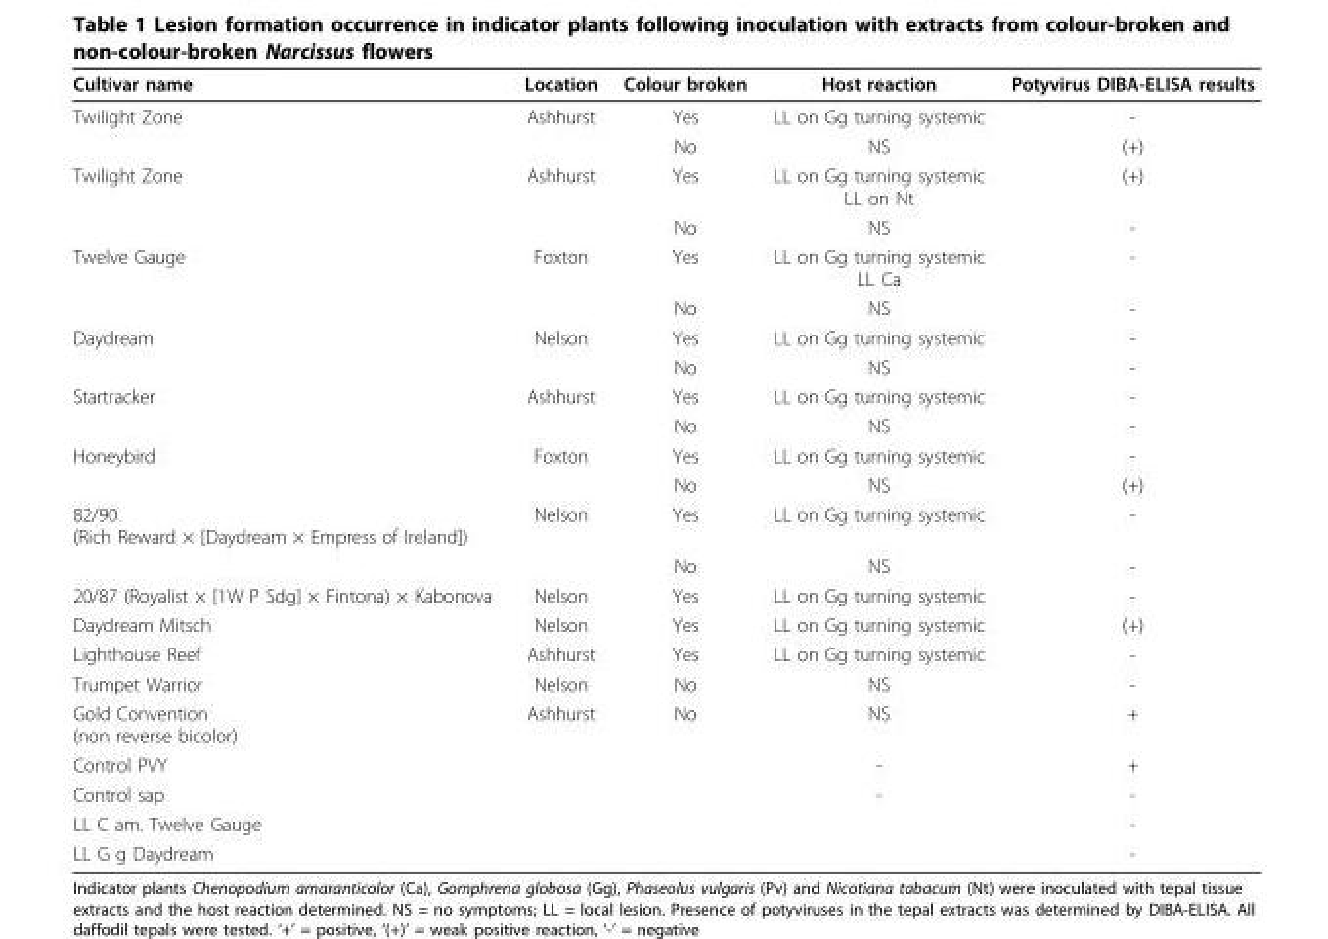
<table><thead><tr><td>Cultivar name</td><td>Location</td><td>Colour broken</td><td>Host reaction</td><td>Potyvirus DIBA-ELISA results</td></tr></thead><tbody><tr><td rowspan="2">Twilight Zone</td><td>Ashhurst</td><td>Yes</td><td>LL on Gg turning systemic</td><td>-</td></tr><tr><td></td><td>No</td><td>NS</td><td>(+)</td></tr><tr><td rowspan="2">Twilight Zone</td><td>Ashhurst</td><td>Yes</td><td>LL on Gg turning systemic LL on Nt</td><td>(+)</td></tr><tr><td></td><td>No</td><td>NS</td><td>-</td></tr><tr><td rowspan="2">Twelve Gauge</td><td>Foxton</td><td>Yes</td><td>LL on Gg turning systemic LL Ca</td><td>-</td></tr><tr><td></td><td>No</td><td>NS</td><td>-</td></tr><tr><td rowspan="2">Daydream</td><td>Nelson</td><td>Yes</td><td>LL on Gg turning systemic</td><td>-</td></tr><tr><td></td><td>No</td><td>NS</td><td>-</td></tr><tr><td rowspan="2">Startracker</td><td>Ashhurst</td><td>Yes</td><td>LL on Gg turning systemic</td><td>-</td></tr><tr><td></td><td>No</td><td>NS</td><td>-</td></tr><tr><td rowspan="2">Honeybird</td><td>Foxton</td><td>Yes</td><td>LL on Gg turning systemic</td><td>-</td></tr><tr><td></td><td>No</td><td>NS</td><td>(+)</td></tr><tr><td rowspan="2">82/90 (Rich Reward × [Daydream × Empress of Ireland])</td><td>Nelson</td><td>Yes</td><td>LL on Gg turning systemic</td><td>-</td></tr><tr><td></td><td>No</td><td>NS</td><td>-</td></tr><tr><td>20/87 (Royalist × [1W P Sdg] × Fintona) × Kabonova</td><td>Nelson</td><td>Yes</td><td>LL on Gg turning systemic</td><td>-</td></tr><tr><td>Daydream Mitsch</td><td>Nelson</td><td>Yes</td><td>LL on Gg turning systemic</td><td>(+)</td></tr><tr><td>Lighthouse Reef</td><td>Ashhurst</td><td>Yes</td><td>LL on Gg turning systemic</td><td>-</td></tr><tr><td>Trumpet Warrior</td><td>Nelson</td><td>No</td><td>NS</td><td>-</td></tr><tr><td>Gold Convention (non reverse bicolor)</td><td>Ashhurst</td><td>No</td><td>NS</td><td>+</td></tr><tr><td>Control PVY</td><td></td><td></td><td>-</td><td>+</td></tr><tr><td>Control sap</td><td></td><td></td><td>-</td><td>-</td></tr><tr><td>LL C am. Twelve Gauge</td><td></td><td></td><td></td><td>-</td></tr><tr><td>LL G g Daydream</td><td></td><td></td><td></td><td>-</td></tr></tbody></table>